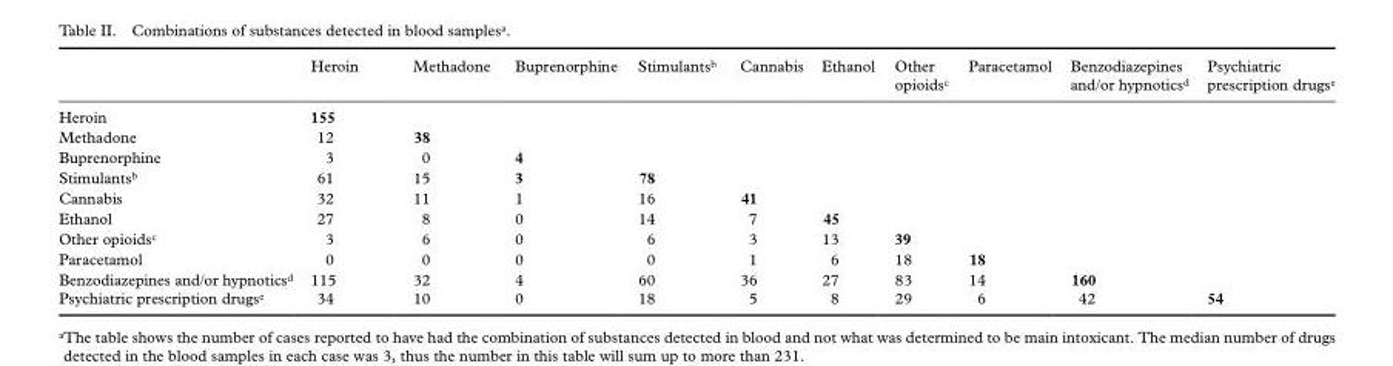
<table><thead><tr><td></td><td>Heroin</td><td>Methadone</td><td>Buprenorphine</td><td>Stimulants<sup>b</sup></td><td>Cannabis</td><td>Ethanol</td><td>Other opioids<sup>c</sup></td><td>Paracetamol</td><td>Benzodiazepines and/or hypnotics<sup>d</sup></td><td>Psychiatric prescription drugs<sup>e</sup></td></tr></thead><tbody><tr><td>Heroin</td><td>155</td><td></td><td></td><td></td><td></td><td></td><td></td><td></td><td></td><td></td></tr><tr><td>Methadone</td><td>12</td><td>38</td><td></td><td></td><td></td><td></td><td></td><td></td><td></td><td></td></tr><tr><td>Buprenorphine</td><td>3</td><td>0</td><td>4</td><td></td><td></td><td></td><td></td><td></td><td></td><td></td></tr><tr><td>Stimulants<sup>b</sup></td><td>61</td><td>15</td><td>3</td><td>78</td><td></td><td></td><td></td><td></td><td></td><td></td></tr><tr><td>Cannabis</td><td>32</td><td>11</td><td>1</td><td>16</td><td>41</td><td></td><td></td><td></td><td></td><td></td></tr><tr><td>Ethanol</td><td>27</td><td>8</td><td>0</td><td>14</td><td>7</td><td>45</td><td></td><td></td><td></td><td></td></tr><tr><td>Other opioids<sup>c</sup></td><td>3</td><td>6</td><td>0</td><td>6</td><td>3</td><td>13</td><td>39</td><td></td><td></td><td></td></tr><tr><td>Paracetamol</td><td>0</td><td>0</td><td>0</td><td>0</td><td>1</td><td>6</td><td>18</td><td>18</td><td></td><td></td></tr><tr><td>Benzodiazepines and/or hypnotics<sup>d</sup></td><td>115</td><td>32</td><td>4</td><td>60</td><td>36</td><td>27</td><td>83</td><td>14</td><td>160</td><td></td></tr><tr><td>Psychiatric prescription drugs<sup>e</sup></td><td>34</td><td>10</td><td>0</td><td>18</td><td>5</td><td>8</td><td>29</td><td>6</td><td>42</td><td>54</td></tr></tbody></table>